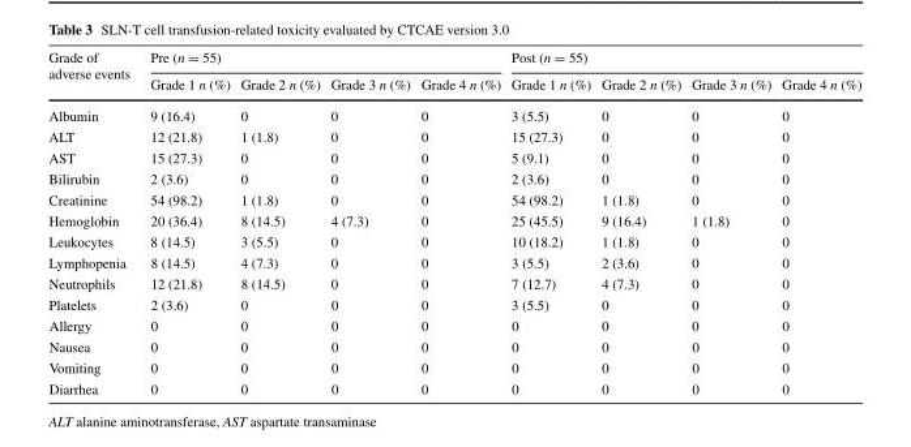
<table><thead><tr><td rowspan="2">Grade of adverse events</td><td colspan="4">Pre (n = 55)</td><td colspan="4">Post (n = 55)</td></tr><tr><td>Grade 1 n (%)</td><td>Grade 2 n (%)</td><td>Grade 3 n (%)</td><td>Grade 4 n (%)</td><td>Grade 1 n (%)</td><td>Grade 2 n (%)</td><td>Grade 3 n (%)</td><td>Grade 4 n (%)</td></tr></thead><tbody><tr><td>Albumin</td><td>9 (16.4)</td><td>0</td><td>0</td><td>0</td><td>3 (5.5)</td><td>0</td><td>0</td><td>0</td></tr><tr><td>ALT</td><td>12 (21.8)</td><td>1 (1.8)</td><td>0</td><td>0</td><td>15 (27.3)</td><td>0</td><td>0</td><td>0</td></tr><tr><td>AST</td><td>15 (27.3)</td><td>0</td><td>0</td><td>0</td><td>5 (9.1)</td><td>0</td><td>0</td><td>0</td></tr><tr><td>Bilirubin</td><td>2 (3.6)</td><td>0</td><td>0</td><td>0</td><td>2 (3.6)</td><td>0</td><td>0</td><td>0</td></tr><tr><td>Creatinine</td><td>54 (98.2)</td><td>1 (1.8)</td><td>0</td><td>0</td><td>54 (98.2)</td><td>1 (1.8)</td><td>0</td><td>0</td></tr><tr><td>Hemoglobin</td><td>20 (36.4)</td><td>8 (14.5)</td><td>4 (7.3)</td><td>0</td><td>25 (45.5)</td><td>9 (16.4)</td><td>1 (1.8)</td><td>0</td></tr><tr><td>Leukocytes</td><td>8 (14.5)</td><td>3 (5.5)</td><td>0</td><td>0</td><td>10 (18.2)</td><td>1 (1.8)</td><td>0</td><td>0</td></tr><tr><td>Lymphopenia</td><td>8 (14.5)</td><td>4 (7.3)</td><td>0</td><td>0</td><td>3 (5.5)</td><td>2 (3.6)</td><td>0</td><td>0</td></tr><tr><td>Neutrophils</td><td>12 (21.8)</td><td>8 (14.5)</td><td>0</td><td>0</td><td>7 (12.7)</td><td>4 (7.3)</td><td>0</td><td>0</td></tr><tr><td>Platelets</td><td>2 (3.6)</td><td>0</td><td>0</td><td>0</td><td>3 (5.5)</td><td>0</td><td>0</td><td>0</td></tr><tr><td>Allergy</td><td>0</td><td>0</td><td>0</td><td>0</td><td>0</td><td>0</td><td>0</td><td>0</td></tr><tr><td>Nausea</td><td>0</td><td>0</td><td>0</td><td>0</td><td>0</td><td>0</td><td>0</td><td>0</td></tr><tr><td>Vomiting</td><td>0</td><td>0</td><td>0</td><td>0</td><td>0</td><td>0</td><td>0</td><td>0</td></tr><tr><td>Diarrhea</td><td>0</td><td>0</td><td>0</td><td>0</td><td>0</td><td>0</td><td>0</td><td>0</td></tr></tbody></table>